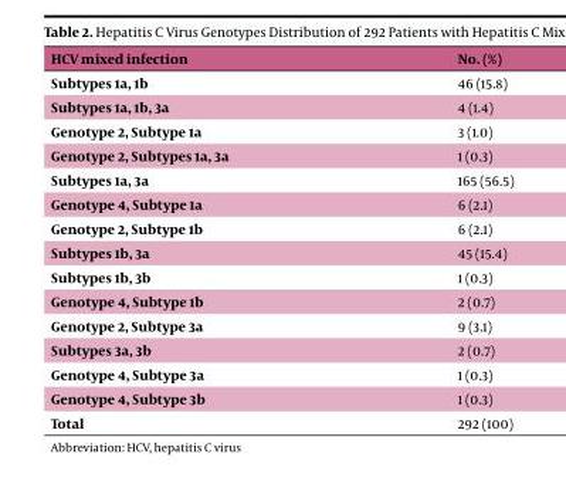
<table><thead><tr><td>HCV mixed infection</td><td>No. (%)</td></tr></thead><tbody><tr><td>Subtypes 1a, 1b</td><td>46 (15.8)</td></tr><tr><td>Subtypes 1a, 1b, 3a</td><td>4 (1.4)</td></tr><tr><td>Genotype 2, Subtype 1a</td><td>3 (1.0)</td></tr><tr><td>Genotype 2, Subtypes 1a, 3a</td><td>1 (0.3)</td></tr><tr><td>Subtypes 1a, 3a</td><td>165 (56.5)</td></tr><tr><td>Genotype 4, Subtype 1a</td><td>6 (2.1)</td></tr><tr><td>Genotype 2, Subtype 1b</td><td>6 (2.1)</td></tr><tr><td>Subtypes 1b, 3a</td><td>45 (15.4)</td></tr><tr><td>Subtypes 1b, 3b</td><td>1 (0.3)</td></tr><tr><td>Genotype 4, Subtype 1b</td><td>2 (0.7)</td></tr><tr><td>Genotype 2, Subtype 3a</td><td>9 (3.1)</td></tr><tr><td>Subtypes 3a, 3b</td><td>2 (0.7)</td></tr><tr><td>Genotype 4, Subtype 3a</td><td>1 (0.3)</td></tr><tr><td>Genotype 4, Subtype 3b</td><td>1 (0.3)</td></tr><tr><td>Total</td><td>292 (100)</td></tr></tbody></table>